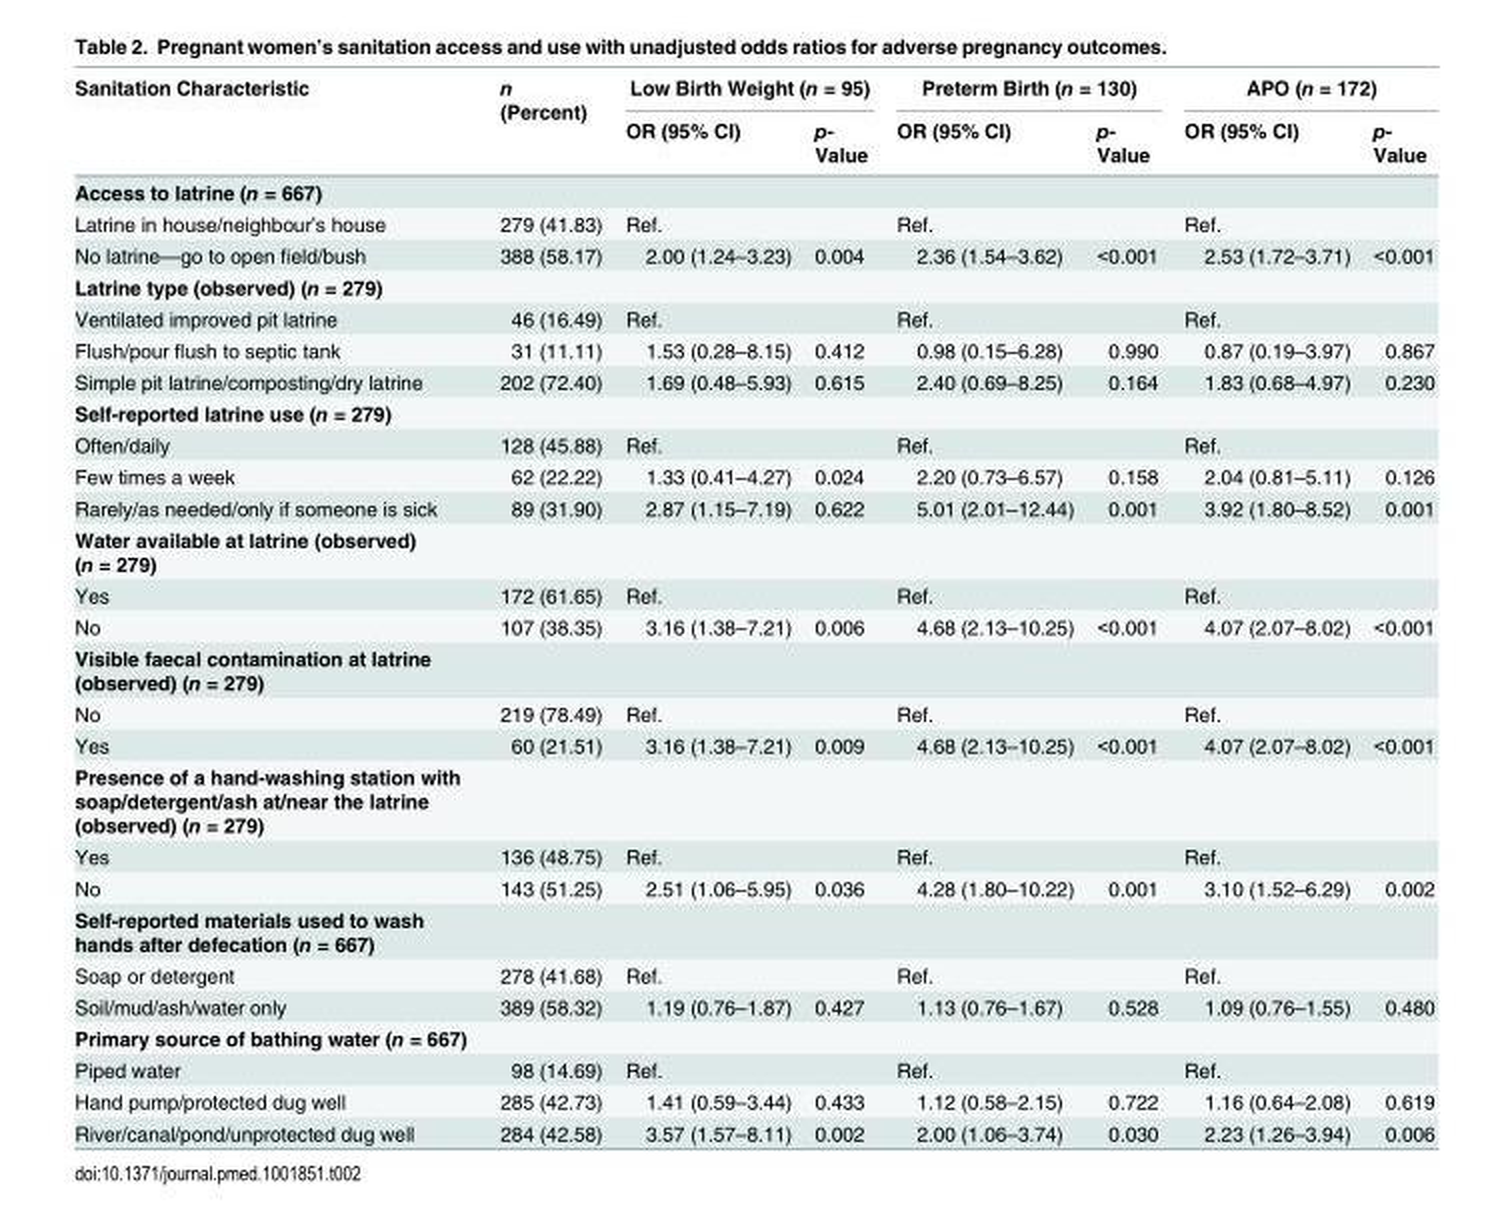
<table><thead><tr><td rowspan="2">Sanitation Characteristic</td><td rowspan="2">n (Percent)</td><td colspan="2">Low Birth Weight (n = 95)</td><td colspan="2">Preterm Birth (n = 130)</td><td colspan="2">APO (n = 172)</td></tr><tr><td>OR (95% CI)</td><td>p- Value</td><td>OR (95% CI)</td><td>p- Value</td><td>OR (95% CI)</td><td>p- Value</td></tr></thead><tbody><tr><td colspan="8">Access to latrine (n = 667)</td></tr><tr><td>Latrine in house/neighbour’s house</td><td>279 (41.83)</td><td>Ref.</td><td></td><td>Ref.</td><td></td><td>Ref.</td><td></td></tr><tr><td>No latrine—go to open field/bush</td><td>388 (58.17)</td><td>2.00 (1.24–3.23)</td><td>0.004</td><td>2.36 (1.54–3.62)</td><td>&lt;0.001</td><td>2.53 (1.72–3.71)</td><td>&lt;0.001</td></tr><tr><td colspan="8">Latrine type (observed) (n = 279)</td></tr><tr><td>Ventilated improved pit latrine</td><td>46 (16.49)</td><td>Ref.</td><td></td><td>Ref.</td><td></td><td>Ref.</td><td></td></tr><tr><td>Flush/pour flush to septic tank</td><td>31 (11.11)</td><td>1.53 (0.28–8.15)</td><td>0.412</td><td>0.98 (0.15–6.28)</td><td>0.990</td><td>0.87 (0.19–3.97)</td><td>0.867</td></tr><tr><td>Simple pit latrine/composting/dry latrine</td><td>202 (72.40)</td><td>1.69 (0.48–5.93)</td><td>0.615</td><td>2.40 (0.69–8.25)</td><td>0.164</td><td>1.83 (0.68–4.97)</td><td>0.230</td></tr><tr><td colspan="8">Self-reported latrine use (n = 279)</td></tr><tr><td>Often/daily</td><td>128 (45.88)</td><td>Ref.</td><td></td><td>Ref.</td><td></td><td>Ref.</td><td></td></tr><tr><td>Few times a week</td><td>62 (22.22)</td><td>1.33 (0.41–4.27)</td><td>0.024</td><td>2.20 (0.73–6.57)</td><td>0.158</td><td>2.04 (0.81–5.11)</td><td>0.126</td></tr><tr><td>Rarely/as needed/only if someone is sick</td><td>89 (31.90)</td><td>2.87 (1.15–7.19)</td><td>0.622</td><td>5.01 (2.01–12.44)</td><td>0.001</td><td>3.92 (1.80–8.52)</td><td>0.001</td></tr><tr><td colspan="8">Water available at latrine (observed) (n = 279)</td></tr><tr><td>Yes</td><td>172 (61.65)</td><td>Ref.</td><td></td><td>Ref.</td><td></td><td>Ref.</td><td></td></tr><tr><td>No</td><td>107 (38.35)</td><td>3.16 (1.38–7.21)</td><td>0.006</td><td>4.68 (2.13–10.25)</td><td>&lt;0.001</td><td>4.07 (2.07–8.02)</td><td>&lt;0.001</td></tr><tr><td colspan="8">Visible faecal contamination at latrine (observed) (n = 279)</td></tr><tr><td>No</td><td>219 (78.49)</td><td>Ref.</td><td></td><td>Ref.</td><td></td><td>Ref.</td><td></td></tr><tr><td>Yes</td><td>60 (21.51)</td><td>3.16 (1.38–7.21)</td><td>0.009</td><td>4.68 (2.13–10.25)</td><td>&lt;0.001</td><td>4.07 (2.07–8.02)</td><td>&lt;0.001</td></tr><tr><td colspan="8">Presence of a hand-washing station with soap/detergent/ash at/near the latrine (observed) (n = 279)</td></tr><tr><td>Yes</td><td>136 (48.75)</td><td>Ref.</td><td></td><td>Ref.</td><td></td><td>Ref.</td><td></td></tr><tr><td>No</td><td>143 (51.25)</td><td>2.51 (1.06–5.95)</td><td>0.036</td><td>4.28 (1.80–10.22)</td><td>0.001</td><td>3.10 (1.52–6.29)</td><td>0.002</td></tr><tr><td colspan="8">Self-reported materials used to wash hands after defecation (n = 667)</td></tr><tr><td>Soap or detergent</td><td>278 (41.68)</td><td>Ref.</td><td></td><td>Ref.</td><td></td><td>Ref.</td><td></td></tr><tr><td>Soil/mud/ash/water only</td><td>389 (58.32)</td><td>1.19 (0.76–1.87)</td><td>0.427</td><td>1.13 (0.76–1.67)</td><td>0.528</td><td>1.09 (0.76–1.55)</td><td>0.480</td></tr><tr><td colspan="8">Primary source of bathing water (n = 667)</td></tr><tr><td>Piped water</td><td>98 (14.69)</td><td>Ref.</td><td></td><td>Ref.</td><td></td><td>Ref.</td><td></td></tr><tr><td>Hand pump/protected dug well</td><td>285 (42.73)</td><td>1.41 (0.59–3.44)</td><td>0.433</td><td>1.12 (0.58–2.15)</td><td>0.722</td><td>1.16 (0.64–2.08)</td><td>0.619</td></tr><tr><td>River/canal/pond/unprotected dug well</td><td>284 (42.58)</td><td>3.57 (1.57–8.11)</td><td>0.002</td><td>2.00 (1.06–3.74)</td><td>0.030</td><td>2.23 (1.26–3.94)</td><td>0.006</td></tr></tbody></table>